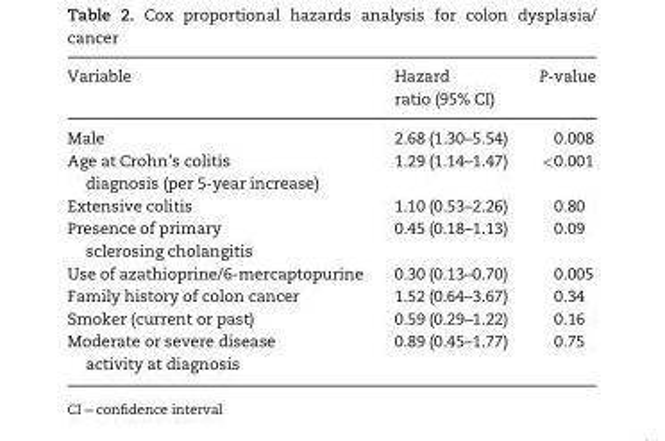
<table><thead><tr><td>Variable</td><td>Hazard ratio (95% CI)</td><td>P-value</td></tr></thead><tbody><tr><td>Male</td><td>2.68 (1.30–5.54)</td><td>0.008</td></tr><tr><td>Age at Crohn’s colitis diagnosis (per 5-year increase)</td><td>1.29 (1.14–1.47)</td><td>&lt;0.001</td></tr><tr><td>Extensive colitis</td><td>1.10 (0.53–2.26)</td><td>0.80</td></tr><tr><td>Presence of primary sclerosing cholangitis</td><td>0.45 (0.18–1.13)</td><td>0.09</td></tr><tr><td>Use of azathioprine/6-mercaptopurine</td><td>0.30 (0.13–0.70)</td><td>0.005</td></tr><tr><td>Family history of colon cancer</td><td>1.52 (0.64–3.67)</td><td>0.34</td></tr><tr><td>Smoker (current or past)</td><td>0.59 (0.29–1.22)</td><td>0.16</td></tr><tr><td>Moderate or severe disease activity at diagnosis</td><td>0.89 (0.45–1.77)</td><td>0.75</td></tr></tbody></table>